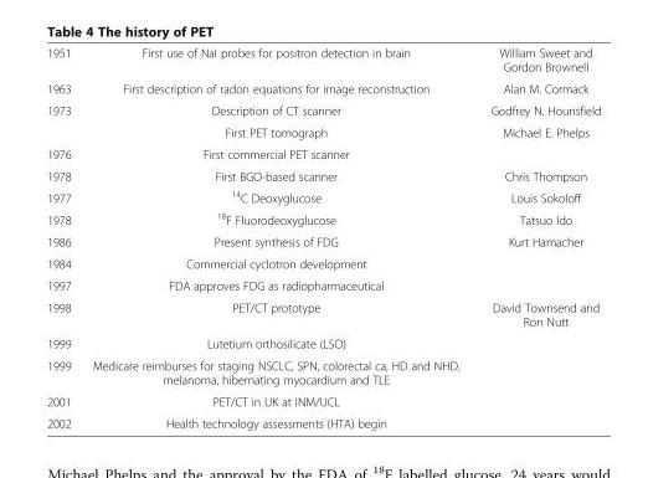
<table><tbody><tr><td>1951</td><td>First use of NaI probes for positron detection in brain</td><td>William Sweet and Gordon Brownell</td></tr><tr><td>1963</td><td>First description of radon equations for image reconstruction</td><td>Alan M. Cormack</td></tr><tr><td rowspan="2">1973</td><td>Description of CT scanner</td><td>Godfrey N. Hounsfield</td></tr><tr><td>First PET tomograph</td><td>Michael E. Phelps</td></tr><tr><td>1976</td><td>First commercial PET scanner</td><td></td></tr><tr><td>1978</td><td>First BGO-based scanner</td><td>Chris Thompson</td></tr><tr><td>1977</td><td><sup>14</sup>C Deoxyglucose</td><td>Louis Sokoloff</td></tr><tr><td>1978</td><td><sup>18</sup>F Fluorodeoxyglucose</td><td>Tatsuo Ido</td></tr><tr><td>1986</td><td>Present synthesis of FDG</td><td>Kurt Hamacher</td></tr><tr><td>1984</td><td>Commercial cyclotron development</td><td></td></tr><tr><td>1997</td><td>FDA approves FDG as radiopharmaceutical</td><td></td></tr><tr><td>1998</td><td>PET/CT prototype</td><td>David Townsend and Ron Nutt</td></tr><tr><td>1999</td><td>Lutetium orthosilicate (LSO)</td><td></td></tr><tr><td>1999</td><td>Medicare reimburses for staging NSCLC, SPN, colorectal ca, HD and NHD, melanoma, hibernating myocardium and TLE</td><td></td></tr><tr><td>2001</td><td>PET/CT in UK at INM/UCL</td><td></td></tr><tr><td>2002</td><td>Health technology assessments (HTA) begin</td><td></td></tr></tbody></table>